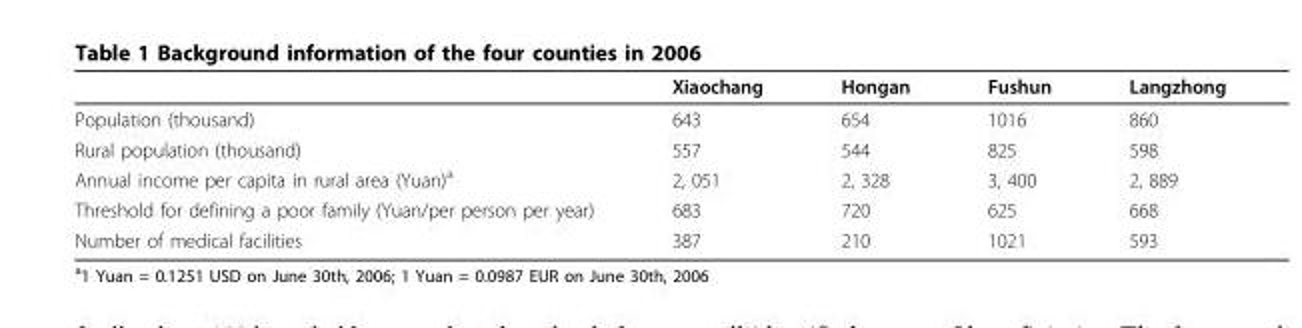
<table><thead><tr><td></td><td>Xiaochang</td><td>Hongan</td><td>Fushun</td><td>Langzhong</td></tr></thead><tbody><tr><td>Population (thousand)</td><td>643</td><td>654</td><td>1016</td><td>860</td></tr><tr><td>Rural population (thousand)</td><td>557</td><td>544</td><td>825</td><td>598</td></tr><tr><td>Annual income per capita in rural area (Yuan)<sup>a</sup></td><td>2, 051</td><td>2, 328</td><td>3, 400</td><td>2, 889</td></tr><tr><td>Threshold for defining a poor family (Yuan/per person per year)</td><td>683</td><td>720</td><td>625</td><td>668</td></tr><tr><td>Number of medical facilities</td><td>387</td><td>210</td><td>1021</td><td>593</td></tr></tbody></table>